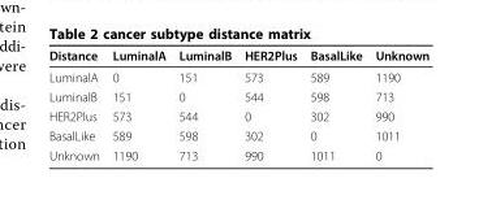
<table><thead><tr><td>Distance</td><td>LuminalA</td><td>LuminalB</td><td>HER2Plus</td><td>BasalLike</td><td>Unknown</td></tr></thead><tbody><tr><td>LuminalA</td><td>0</td><td>151</td><td>573</td><td>589</td><td>1190</td></tr><tr><td>LuminalB</td><td>151</td><td>0</td><td>544</td><td>598</td><td>713</td></tr><tr><td>HER2Plus</td><td>573</td><td>544</td><td>0</td><td>302</td><td>990</td></tr><tr><td>BasalLike</td><td>589</td><td>598</td><td>302</td><td>0</td><td>1011</td></tr><tr><td>Unknown</td><td>1190</td><td>713</td><td>990</td><td>1011</td><td>0</td></tr></tbody></table>